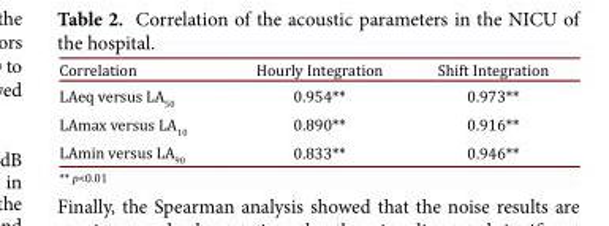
<table><thead><tr><td>Correlation</td><td>Hourly Integration</td><td>Shift Integration</td></tr></thead><tbody><tr><td>LAeq versus LA<sub>50</sub></td><td>0.954**</td><td>0.973**</td></tr><tr><td>LAmax versus LA<sub>10</sub></td><td>0.890**</td><td>0.916**</td></tr><tr><td>LAmin versus LA<sub>90</sub></td><td>0.833**</td><td>0.946**</td></tr></tbody></table>